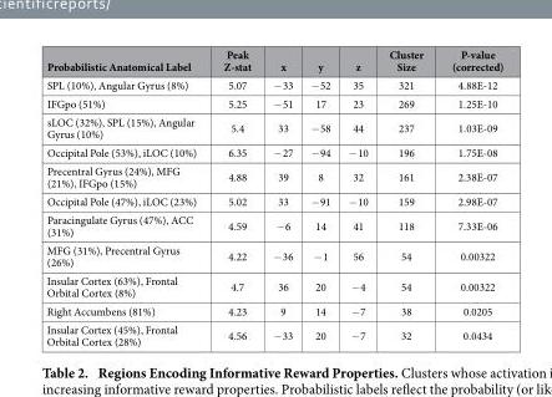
<table><thead><tr><td>Probabilistic Anatomical Label</td><td>Peak Z-stat</td><td>x</td><td>y</td><td>z</td><td>Cluster Size</td><td>P-value (corrected)</td></tr></thead><tbody><tr><td>SPL (10%), Angular Gyrus (8%)</td><td>5.07</td><td>− 33</td><td>− 52</td><td>35</td><td>321</td><td>4.88E-12</td></tr><tr><td>IFGpo (51%)</td><td>5.25</td><td>− 51</td><td>17</td><td>23</td><td>269</td><td>1.25E-10</td></tr><tr><td>sLOC (32%), SPL (15%), Angular Gyrus (10%)</td><td>5.4</td><td>33</td><td>− 58</td><td>44</td><td>237</td><td>1.03E-09</td></tr><tr><td>Occipital Pole (53%), iLOC (10%)</td><td>6.35</td><td>− 27</td><td>− 94</td><td>− 10</td><td>196</td><td>1.75E-08</td></tr><tr><td>Precentral Gyrus (24%), MFG (21%), IFGpo (15%)</td><td>4.88</td><td>39</td><td>8</td><td>32</td><td>161</td><td>2.38E-07</td></tr><tr><td>Occipital Pole (47%), iLOC (23%)</td><td>5.02</td><td>33</td><td>− 91</td><td>− 10</td><td>159</td><td>2.98E-07</td></tr><tr><td>Paracingulate Gyrus (47%), ACC (31%)</td><td>4.59</td><td>− 6</td><td>14</td><td>41</td><td>118</td><td>7.33E-06</td></tr><tr><td>MFG (31%), Precentral Gyrus (26%)</td><td>4.22</td><td>− 36</td><td>− 1</td><td>56</td><td>54</td><td>0.00322</td></tr><tr><td>Insular Cortex (63%), Frontal Orbital Cortex (8%)</td><td>4.7</td><td>36</td><td>20</td><td>− 4</td><td>54</td><td>0.00322</td></tr><tr><td>Right Accumbens (81%)</td><td>4.23</td><td>9</td><td>14</td><td>− 7</td><td>38</td><td>0.0205</td></tr><tr><td>Insular Cortex (45%), Frontal Orbital Cortex (28%)</td><td>4.56</td><td>− 33</td><td>20</td><td>− 7</td><td>32</td><td>0.0434</td></tr></tbody></table>